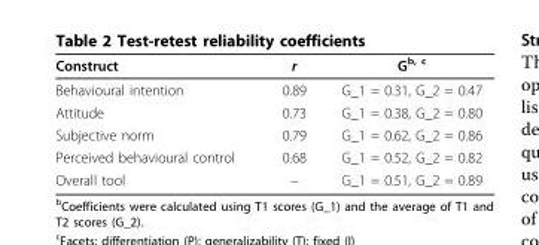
<table><thead><tr><td>Construct</td><td>r</td><td>G<sup>b, c</sup></td></tr></thead><tbody><tr><td>Behavioural intention</td><td>0.89</td><td>G_1 = 0.31, G_2 = 0.47</td></tr><tr><td>Attitude</td><td>0.73</td><td>G_1 = 0.38, G_2 = 0.80</td></tr><tr><td>Subjective norm</td><td>0.79</td><td>G_1 = 0.62, G_2 = 0.86</td></tr><tr><td>Perceived behavioural control</td><td>0.68</td><td>G_1 = 0.52, G_2 = 0.82</td></tr><tr><td>Overall tool</td><td>–</td><td>G_1 = 0.51, G_2 = 0.89</td></tr></tbody></table>